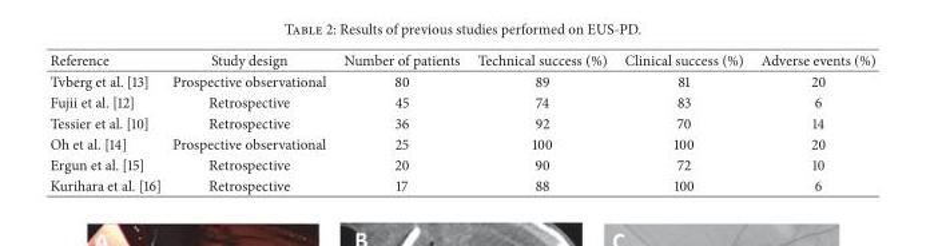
<table><thead><tr><td>Reference</td><td>Study design</td><td>Number of patients</td><td>Technical success (%)</td><td>Clinical success (%)</td><td>Adverse events (%)</td></tr></thead><tbody><tr><td>Tvberg et al. [13]</td><td>Prospective observational</td><td>80</td><td>89</td><td>81</td><td>20</td></tr><tr><td>Fujii et al. [12]</td><td>Retrospective</td><td>45</td><td>74</td><td>83</td><td>6</td></tr><tr><td>Tessier et al. [10]</td><td>Retrospective</td><td>36</td><td>92</td><td>70</td><td>14</td></tr><tr><td>Oh et al. [14]</td><td>Prospective observational</td><td>25</td><td>100</td><td>100</td><td>20</td></tr><tr><td>Ergun et al. [15]</td><td>Retrospective</td><td>20</td><td>90</td><td>72</td><td>10</td></tr><tr><td>Kurihara et al. [16]</td><td>Retrospective</td><td>17</td><td>88</td><td>100</td><td>6</td></tr></tbody></table>